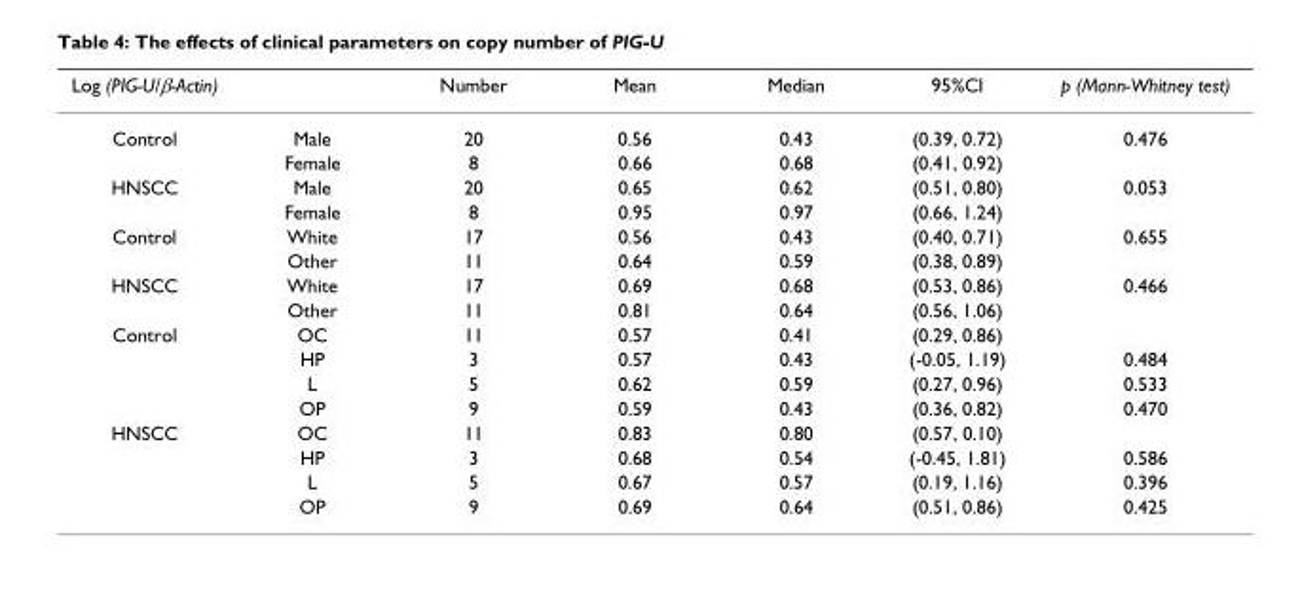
<table><thead><tr><td>Log (PIG-U/β-Actin)</td><td></td><td>Number</td><td>Mean</td><td>Median</td><td>95%CI</td><td>p (Mann-Whitney test)</td></tr></thead><tbody><tr><td rowspan="2">Control</td><td>Male</td><td>20</td><td>0.56</td><td>0.43</td><td>(0.39, 0.72)</td><td>0.476</td></tr><tr><td>Female</td><td>8</td><td>0.66</td><td>0.68</td><td>(0.41, 0.92)</td><td></td></tr><tr><td rowspan="2">HNSCC</td><td>Male</td><td>20</td><td>0.65</td><td>0.62</td><td>(0.51, 0.80)</td><td>0.053</td></tr><tr><td>Female</td><td>8</td><td>0.95</td><td>0.97</td><td>(0.66, 1.24)</td><td></td></tr><tr><td rowspan="2">Control</td><td>White</td><td>17</td><td>0.56</td><td>0.43</td><td>(0.40, 0.71)</td><td>0.655</td></tr><tr><td>Other</td><td>11</td><td>0.64</td><td>0.59</td><td>(0.38, 0.89)</td><td></td></tr><tr><td rowspan="2">HNSCC</td><td>White</td><td>17</td><td>0.69</td><td>0.68</td><td>(0.53, 0.86)</td><td>0.466</td></tr><tr><td>Other</td><td>11</td><td>0.81</td><td>0.64</td><td>(0.56, 1.06)</td><td></td></tr><tr><td rowspan="4">Control</td><td>OC</td><td>11</td><td>0.57</td><td>0.41</td><td>(0.29, 0.86)</td><td></td></tr><tr><td>HP</td><td>3</td><td>0.57</td><td>0.43</td><td>(-0.05, 1.19)</td><td>0.484</td></tr><tr><td>L</td><td>5</td><td>0.62</td><td>0.59</td><td>(0.27, 0.96)</td><td>0.533</td></tr><tr><td>OP</td><td>9</td><td>0.59</td><td>0.43</td><td>(0.36, 0.82)</td><td>0.470</td></tr><tr><td rowspan="4">HNSCC</td><td>OC</td><td>11</td><td>0.83</td><td>0.80</td><td>(0.57, 0.10)</td><td></td></tr><tr><td>HP</td><td>3</td><td>0.68</td><td>0.54</td><td>(-0.45, 1.81)</td><td>0.586</td></tr><tr><td>L</td><td>5</td><td>0.67</td><td>0.57</td><td>(0.19, 1.16)</td><td>0.396</td></tr><tr><td>OP</td><td>9</td><td>0.69</td><td>0.64</td><td>(0.51, 0.86)</td><td>0.425</td></tr></tbody></table>